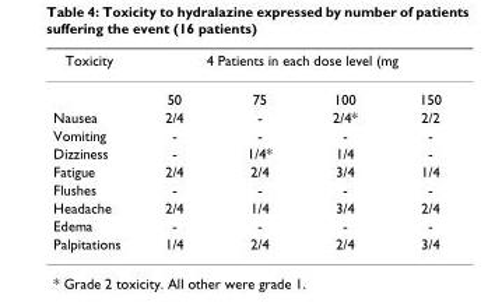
<table><thead><tr><td rowspan="2">Toxicity</td><td colspan="4">4 Patients in each dose level (mg</td></tr><tr><td>50</td><td>75</td><td>100</td><td>150</td></tr></thead><tbody><tr><td>Nausea</td><td>2/4</td><td>-</td><td>2/4*</td><td>2/2</td></tr><tr><td>Vomiting</td><td>-</td><td>-</td><td>-</td><td>-</td></tr><tr><td>Dizziness</td><td>-</td><td>1/4*</td><td>1/4</td><td>-</td></tr><tr><td>Fatigue</td><td>2/4</td><td>2/4</td><td>3/4</td><td>1/4</td></tr><tr><td>Flushes</td><td>-</td><td>-</td><td>-</td><td>-</td></tr><tr><td>Headache</td><td>2/4</td><td>1/4</td><td>3/4</td><td>2/4</td></tr><tr><td>Edema</td><td>-</td><td>-</td><td>-</td><td>-</td></tr><tr><td>Palpitations</td><td>1/4</td><td>2/4</td><td>2/4</td><td>3/4</td></tr></tbody></table>